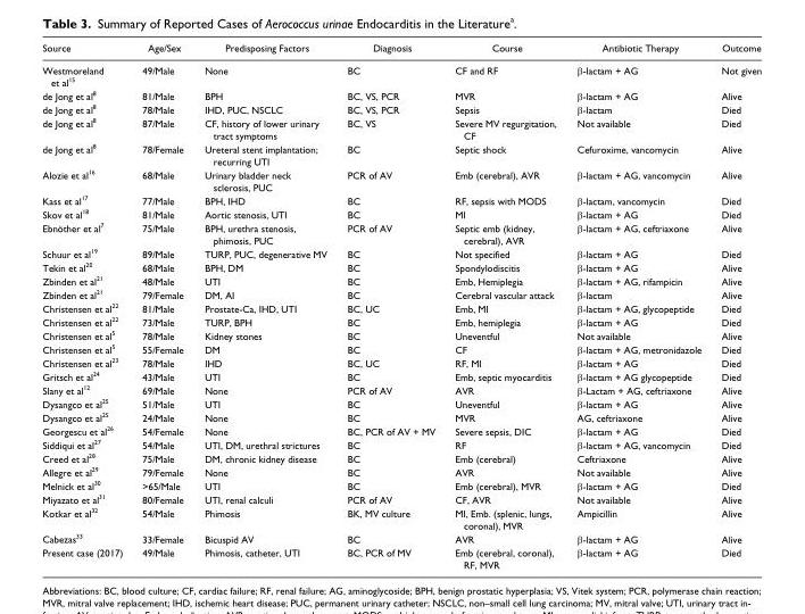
<table><thead><tr><td>Source</td><td>Age/Sex</td><td>Predisposing Factors</td><td>Diagnosis</td><td>Course</td><td>Antibiotic Therapy</td><td>Outcome</td></tr></thead><tbody><tr><td>Westmoreland et al<sup>15</sup></td><td>49/Male</td><td>None</td><td>BC</td><td>CF and RF</td><td>β-lactam + AG</td><td>Not given</td></tr><tr><td>de Jong et al<sup>8</sup></td><td>81/Male</td><td>BPH</td><td>BC, VS, PCR</td><td>MVR</td><td>β-lactam + AG</td><td>Alive</td></tr><tr><td>de Jong et al<sup>8</sup></td><td>78/Male</td><td>IHD, PUC, NSCLC</td><td>BC, VS, PCR</td><td>Sepsis</td><td>β-lactam</td><td>Died</td></tr><tr><td>de Jong et al<sup>8</sup></td><td>87/Male</td><td>CF, history of lower urinary tract symptoms</td><td>BC, VS</td><td>Severe MV regurgitation, CF</td><td>Not available</td><td>Died</td></tr><tr><td>de Jong et al<sup>8</sup></td><td>78/Female</td><td>Ureteral stent implantation; recurring UTI</td><td>BC</td><td>Septic shock</td><td>Cefuroxime, vancomycin</td><td>Alive</td></tr><tr><td>Alozie et al<sup>16</sup></td><td>68/Male</td><td>Urinary bladder neck sclerosis, PUC</td><td>PCR of AV</td><td>Emb (cerebral), AVR</td><td>β-lactam + AG, vancomycin</td><td>Alive</td></tr><tr><td>Kass et al<sup>17</sup></td><td>77/Male</td><td>BPH, IHD</td><td>BC</td><td>RF, sepsis with MODS</td><td>β-lactam, vancomycin</td><td>Died</td></tr><tr><td>Skov et al<sup>18</sup></td><td>81/Male</td><td>Aortic stenosis, UTI</td><td>BC</td><td>MI</td><td>β-lactam + AG</td><td>Died</td></tr><tr><td>Ebnöther et al<sup>7</sup></td><td>75/Male</td><td>BPH, urethra stenosis, phimosis, PUC</td><td>PCR of AV</td><td>Septic emb (kidney, cerebral), AVR</td><td>β-lactam + AG, ceftriaxone</td><td>Alive</td></tr><tr><td>Schuur et al<sup>19</sup></td><td>89/Male</td><td>TURP, PUC, degenerative MV</td><td>BC</td><td>Not specified</td><td>β-lactam + AG</td><td>Died</td></tr><tr><td>Tekin et al<sup>20</sup></td><td>68/Male</td><td>BPH, DM</td><td>BC</td><td>Spondylodiscitis</td><td>β-lactam + AG</td><td>Alive</td></tr><tr><td>Zbinden et al<sup>21</sup></td><td>48/Male</td><td>UTI</td><td>BC</td><td>Emb, Hemiplegia</td><td>β-lactam + AG, rifampicin</td><td>Alive</td></tr><tr><td>Zbinden et al<sup>21</sup></td><td>79/Female</td><td>DM, AI</td><td>BC</td><td>Cerebral vascular attack</td><td>β-lactam</td><td>Alive</td></tr><tr><td>Christensen et al<sup>22</sup></td><td>81/Male</td><td>Prostate-Ca, IHD, UTI</td><td>BC, UC</td><td>Emb, MI</td><td>β-lactam + AG, glycopeptide</td><td>Died</td></tr><tr><td>Christensen et al<sup>22</sup></td><td>73/Male</td><td>TURP, BPH</td><td>BC</td><td>Emb, hemiplegia</td><td>β-lactam + AG</td><td>Died</td></tr><tr><td>Christensen et al<sup>5</sup></td><td>78/Male</td><td>Kidney stones</td><td>BC</td><td>Uneventful</td><td>Not available</td><td>Alive</td></tr><tr><td>Christensen et al<sup>5</sup></td><td>55/Female</td><td>DM</td><td>BC</td><td>CF</td><td>β-lactam + AG, metronidazole</td><td>Died</td></tr><tr><td>Christensen et al<sup>23</sup></td><td>78/Male</td><td>IHD</td><td>BC, UC</td><td>RF, MI</td><td>β-lactam + AG</td><td>Died</td></tr><tr><td>Gritsch et al<sup>24</sup></td><td>43/Male</td><td>UTI</td><td>BC</td><td>Emb, septic myocarditis</td><td>β-lactam + AG glycopeptide</td><td>Died</td></tr><tr><td>Slany et al<sup>12</sup></td><td>69/Male</td><td>None</td><td>PCR of AV</td><td>AVR</td><td>β-Lactam + AG, ceftriaxone</td><td>Alive</td></tr><tr><td>Dysangco et al<sup>25</sup></td><td>51/Male</td><td>UTI</td><td>BC</td><td>Uneventful</td><td>β-lactam + AG</td><td>Alive</td></tr><tr><td>Dysangco et al<sup>25</sup></td><td>24/Male</td><td>None</td><td>BC</td><td>MVR</td><td>AG, ceftriaxone</td><td>Alive</td></tr><tr><td>Georgescu et al<sup>26</sup></td><td>54/Female</td><td>None</td><td>BC, PCR of AV + MV</td><td>Severe sepsis, DIC</td><td>β-lactam + AG</td><td>Died</td></tr><tr><td>Siddiqui et al<sup>27</sup></td><td>54/Male</td><td>UTI, DM, urethral strictures</td><td>BC</td><td>RF</td><td>β-lactam + AG, vancomycin</td><td>Died</td></tr><tr><td>Creed et al<sup>28</sup></td><td>75/Male</td><td>DM, chronic kidney disease</td><td>BC</td><td>Emb (cerebral)</td><td>Ceftriaxone</td><td>Alive</td></tr><tr><td>Allegre et al<sup>29</sup></td><td>79/Female</td><td>None</td><td>BC</td><td>AVR</td><td>Not available</td><td>Alive</td></tr><tr><td>Melnick et al<sup>30</sup></td><td>&gt;65/Male</td><td>UTI</td><td>BC</td><td>Emb (cerebral), MVR</td><td>β-lactam + AG</td><td>Died</td></tr><tr><td>Miyazato et al<sup>31</sup></td><td>80/Female</td><td>UTI, renal calculi</td><td>PCR of AV</td><td>CF, AVR</td><td>Not available</td><td>Alive</td></tr><tr><td>Kotkar et al<sup>32</sup></td><td>54/Male</td><td>Phimosis</td><td>BK, MV culture</td><td>MI, Emb. (splenic, lungs, coronal), MVR</td><td>Ampicillin</td><td>Alive</td></tr><tr><td>Cabezas<sup>33</sup></td><td>33/Female</td><td>Bicuspid AV</td><td>BC</td><td>AVR</td><td>β-lactam + AG</td><td>Alive</td></tr><tr><td>Present case (2017)</td><td>49/Male</td><td>Phimosis, catheter, UTI</td><td>BC, PCR of MV</td><td>Emb (cerebral, coronal), RF, MVR</td><td>β-lactam + AG</td><td>Died</td></tr></tbody></table>